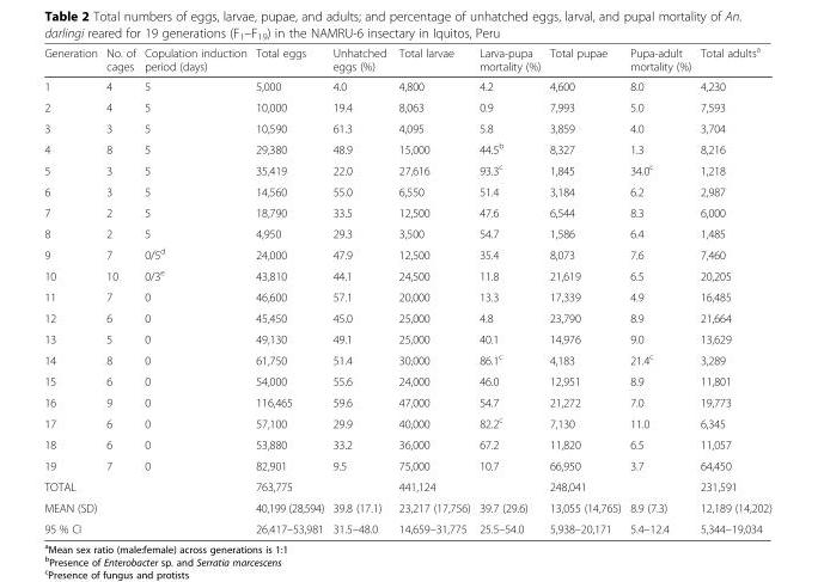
<table><thead><tr><td>Generation</td><td>No. of cages</td><td>Copulation induction period (days)</td><td>Total eggs</td><td>Unhatched eggs (%)</td><td>Total larvae</td><td>Larva-pupa mortality (%)</td><td>Total pupae</td><td>Pupa-adult mortality (%)</td><td>Total adults<sup>a</sup></td></tr></thead><tbody><tr><td>1</td><td>4</td><td>5</td><td>5,000</td><td>4.0</td><td>4,800</td><td>4.2</td><td>4,600</td><td>8.0</td><td>4,230</td></tr><tr><td>2</td><td>4</td><td>5</td><td>10,000</td><td>19.4</td><td>8,063</td><td>0.9</td><td>7,993</td><td>5.0</td><td>7,593</td></tr><tr><td>3</td><td>3</td><td>5</td><td>10,590</td><td>61.3</td><td>4,095</td><td>5.8</td><td>3,859</td><td>4.0</td><td>3,704</td></tr><tr><td>4</td><td>8</td><td>5</td><td>29,380</td><td>48.9</td><td>15,000</td><td>44.5<sup>b</sup></td><td>8,327</td><td>1.3</td><td>8,216</td></tr><tr><td>5</td><td>3</td><td>5</td><td>35,419</td><td>22.0</td><td>27,616</td><td>93.3<sup>c</sup></td><td>1,845</td><td>34.0<sup>c</sup></td><td>1,218</td></tr><tr><td>6</td><td>3</td><td>5</td><td>14,560</td><td>55.0</td><td>6,550</td><td>51.4</td><td>3,184</td><td>6.2</td><td>2,987</td></tr><tr><td>7</td><td>2</td><td>5</td><td>18,790</td><td>33.5</td><td>12,500</td><td>47.6</td><td>6,544</td><td>8.3</td><td>6,000</td></tr><tr><td>8</td><td>2</td><td>5</td><td>4,950</td><td>29.3</td><td>3,500</td><td>54.7</td><td>1,586</td><td>6.4</td><td>1,485</td></tr><tr><td>9</td><td>7</td><td>0/5<sup>d</sup></td><td>24,000</td><td>47.9</td><td>12,500</td><td>35.4</td><td>8,073</td><td>7.6</td><td>7,460</td></tr><tr><td>10</td><td>10</td><td>0/3<sup>e</sup></td><td>43,810</td><td>44.1</td><td>24,500</td><td>11.8</td><td>21,619</td><td>6.5</td><td>20,205</td></tr><tr><td>11</td><td>7</td><td>0</td><td>46,600</td><td>57.1</td><td>20,000</td><td>13.3</td><td>17,339</td><td>4.9</td><td>16,485</td></tr><tr><td>12</td><td>6</td><td>0</td><td>45,450</td><td>45.0</td><td>25,000</td><td>4.8</td><td>23,790</td><td>8.9</td><td>21,664</td></tr><tr><td>13</td><td>5</td><td>0</td><td>49,130</td><td>49.1</td><td>25,000</td><td>40.1</td><td>14,976</td><td>9.0</td><td>13,629</td></tr><tr><td>14</td><td>8</td><td>0</td><td>61,750</td><td>51.4</td><td>30,000</td><td>86.1<sup>c</sup></td><td>4,183</td><td>21.4<sup>c</sup></td><td>3,289</td></tr><tr><td>15</td><td>6</td><td>0</td><td>54,000</td><td>55.6</td><td>24,000</td><td>46.0</td><td>12,951</td><td>8.9</td><td>11,801</td></tr><tr><td>16</td><td>9</td><td>0</td><td>116,465</td><td>59.6</td><td>47,000</td><td>54.7</td><td>21,272</td><td>7.0</td><td>19,773</td></tr><tr><td>17</td><td>6</td><td>0</td><td>57,100</td><td>29.9</td><td>40,000</td><td>82.2<sup>c</sup></td><td>7,130</td><td>11.0</td><td>6,345</td></tr><tr><td>18</td><td>6</td><td>0</td><td>53,880</td><td>33.2</td><td>36,000</td><td>67.2</td><td>11,820</td><td>6.5</td><td>11,057</td></tr><tr><td>19</td><td>7</td><td>0</td><td>82,901</td><td>9.5</td><td>75,000</td><td>10.7</td><td>66,950</td><td>3.7</td><td>64,450</td></tr><tr><td>TOTAL</td><td></td><td></td><td>763,775</td><td></td><td>441,124</td><td></td><td>248,041</td><td></td><td>231,591</td></tr><tr><td>MEAN (SD)</td><td></td><td></td><td>40,199 (28,594)</td><td>39.8 (17.1)</td><td>23,217 (17,756)</td><td>39.7 (29.6)</td><td>13,055 (14,765)</td><td>8.9 (7.3)</td><td>12,189 (14,202)</td></tr><tr><td>95 % CI</td><td></td><td></td><td>26,417–53,981</td><td>31.5–48.0</td><td>14,659–31,775</td><td>25.5–54.0</td><td>5,938–20,171</td><td>5.4–12.4</td><td>5,344–19,034</td></tr></tbody></table>